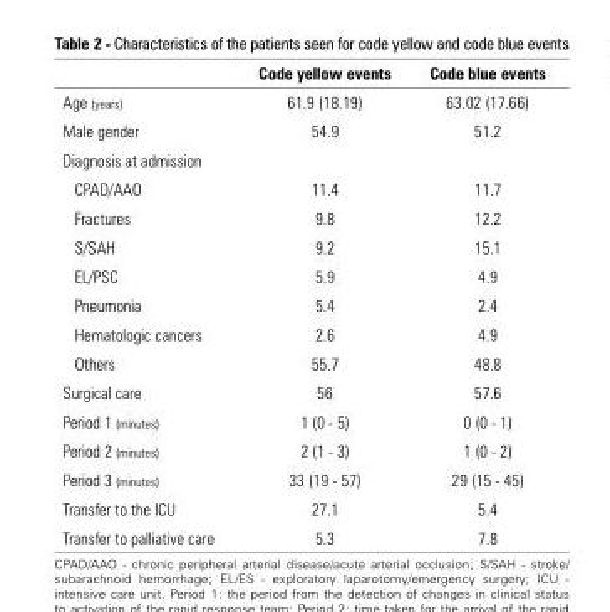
<table><thead><tr><td></td><td>Code yellow events</td><td>Code blue events</td></tr></thead><tbody><tr><td>Age (years)</td><td>61.9 (18.19)</td><td>63.02 (17.66)</td></tr><tr><td>Male gender</td><td>54.9</td><td>51.2</td></tr><tr><td colspan="3">Diagnosis at admission</td></tr><tr><td>CPAD/AAO</td><td>11.4</td><td>11.7</td></tr><tr><td>Fractures</td><td>9.8</td><td>12.2</td></tr><tr><td>S/SAH</td><td>9.2</td><td>15.1</td></tr><tr><td>EL/PSC</td><td>5.9</td><td>4.9</td></tr><tr><td>Pneumonia</td><td>5.4</td><td>2.4</td></tr><tr><td>Hematologic cancers</td><td>2.6</td><td>4.9</td></tr><tr><td>Others</td><td>55.7</td><td>48.8</td></tr><tr><td>Surgical care</td><td>56</td><td>57.6</td></tr><tr><td>Period 1 (minutes)</td><td>1 (0 - 5)</td><td>0 (0 - 1)</td></tr><tr><td>Period 2 (minutes)</td><td>2 (1 - 3)</td><td>1 (0 - 2)</td></tr><tr><td>Period 3 (minutes)</td><td>33 (19 - 57)</td><td>29 (15 - 45)</td></tr><tr><td>Transfer to the ICU</td><td>27.1</td><td>5.4</td></tr><tr><td>Transfer to palliative care</td><td>5.3</td><td>7.8</td></tr></tbody></table>